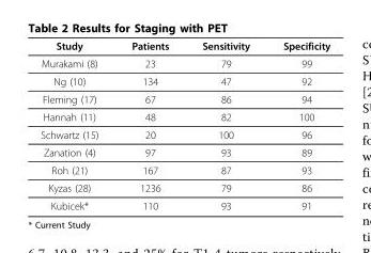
<table><thead><tr><td>Study</td><td>Patients</td><td>Sensitivity</td><td>Specificity</td></tr></thead><tbody><tr><td>Murakami (8)</td><td>23</td><td>79</td><td>99</td></tr><tr><td>Ng (10)</td><td>134</td><td>47</td><td>92</td></tr><tr><td>Fleming (17)</td><td>67</td><td>86</td><td>94</td></tr><tr><td>Hannah (11)</td><td>48</td><td>82</td><td>100</td></tr><tr><td>Schwartz (15)</td><td>20</td><td>100</td><td>96</td></tr><tr><td>Zanation (4)</td><td>97</td><td>93</td><td>89</td></tr><tr><td>Roh (21)</td><td>167</td><td>87</td><td>93</td></tr><tr><td>Kyzas (28)</td><td>1236</td><td>79</td><td>86</td></tr><tr><td>Kubicek*</td><td>110</td><td>93</td><td>91</td></tr></tbody></table>